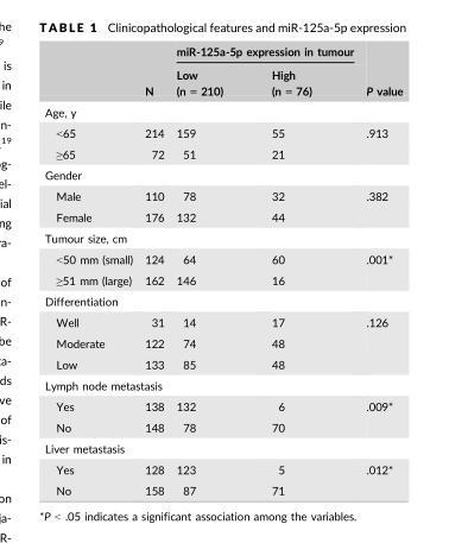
<table><thead><tr><td rowspan="2"></td><td rowspan="2">N</td><td colspan="2">miR-125a-5p expression in tumour</td><td rowspan="2">P value</td></tr><tr><td>Low (n = 210)</td><td>High (n = 76)</td></tr></thead><tbody><tr><td colspan="5">Age, y</td></tr><tr><td>&lt;65</td><td>214</td><td>159</td><td>55</td><td>.913</td></tr><tr><td>≥65</td><td>72</td><td>51</td><td>21</td><td></td></tr><tr><td colspan="5">Gender</td></tr><tr><td>Male</td><td>110</td><td>78</td><td>32</td><td>.382</td></tr><tr><td>Female</td><td>176</td><td>132</td><td>44</td><td></td></tr><tr><td colspan="5">Tumour size, cm</td></tr><tr><td>&lt;50 mm (small)</td><td>124</td><td>64</td><td>60</td><td>.001*</td></tr><tr><td>≥51 mm (large)</td><td>162</td><td>146</td><td>16</td><td></td></tr><tr><td colspan="5">Differentiation</td></tr><tr><td>Well</td><td>31</td><td>14</td><td>17</td><td>.126</td></tr><tr><td>Moderate</td><td>122</td><td>74</td><td>48</td><td></td></tr><tr><td>Low</td><td>133</td><td>85</td><td>48</td><td></td></tr><tr><td colspan="5">Lymph node metastasis</td></tr><tr><td>Yes</td><td>138</td><td>132</td><td>6</td><td>.009*</td></tr><tr><td>No</td><td>148</td><td>78</td><td>70</td><td></td></tr><tr><td colspan="5">Liver metastasis</td></tr><tr><td>Yes</td><td>128</td><td>123</td><td>5</td><td rowspan="2">.012*</td></tr><tr><td>No</td><td>158</td><td>87</td><td>71</td></tr></tbody></table>